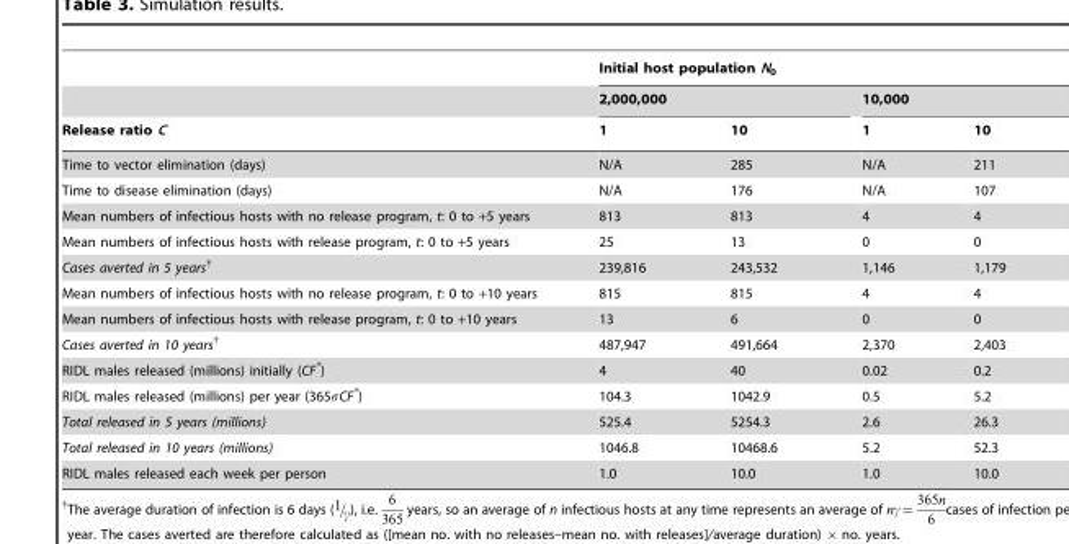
<table><thead><tr><td rowspan="3">Release ratio C</td><td colspan="4">Initial host population N<sub>0</sub></td></tr><tr><td colspan="2">2,000,000</td><td colspan="2">10,000</td></tr><tr><td>1</td><td>10</td><td>1</td><td>10</td></tr></thead><tbody><tr><td>Time to vector elimination (days)</td><td>N/A</td><td>285</td><td>N/A</td><td>211</td></tr><tr><td>Time to disease elimination (days)</td><td>N/A</td><td>176</td><td>N/A</td><td>107</td></tr><tr><td>Mean numbers of infectious hosts with no release program, t: 0 to +5 years</td><td>813</td><td>813</td><td>4</td><td>4</td></tr><tr><td>Mean numbers of infectious hosts with release program, t: 0 to +5 years</td><td>25</td><td>13</td><td>0</td><td>0</td></tr><tr><td>Cases averted in 5 years†</td><td>239,816</td><td>243,532</td><td>1,146</td><td>1,179</td></tr><tr><td>Mean numbers of infectious hosts with no release program, t: 0 to +10 years</td><td>815</td><td>815</td><td>4</td><td>4</td></tr><tr><td>Mean numbers of infectious hosts with release program, t: 0 to +10 years</td><td>13</td><td>6</td><td>0</td><td>0</td></tr><tr><td>Cases averted in 10 years†</td><td>487,947</td><td>491,664</td><td>2,370</td><td>2,403</td></tr><tr><td>RIDL males released (millions) initially (CF*)</td><td>4</td><td>40</td><td>0.02</td><td>0.2</td></tr><tr><td>RIDL males released (millions) per year (365σCF*)</td><td>104.3</td><td>1042.9</td><td>0.5</td><td>5.2</td></tr><tr><td>Total released in 5 years (millions)</td><td>525.4</td><td>5254.3</td><td>2.6</td><td>26.3</td></tr><tr><td>Total released in 10 years (millions)</td><td>1046.8</td><td>10468.6</td><td>5.2</td><td>52.3</td></tr><tr><td>RIDL males released each week per person</td><td>1.0</td><td>10.0</td><td>1.0</td><td>10.0</td></tr></tbody></table>